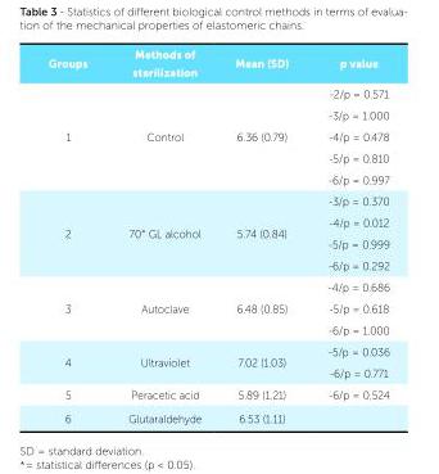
<table><thead><tr><td>Groups</td><td>Methods of sterilization</td><td>Mean (SD)</td><td>p value</td></tr></thead><tbody><tr><td rowspan="5">1</td><td rowspan="5">Control</td><td rowspan="5">6.36 (0.79)</td><td>-2/p = 0.571</td></tr><tr><td>-3/p = 1.000</td></tr><tr><td>-4/p = 0.478</td></tr><tr><td>-5/p = 0.810</td></tr><tr><td>-6/p = 0.997</td></tr><tr><td rowspan="4">2</td><td rowspan="4">70° GL alcohol</td><td rowspan="4">5.74 (0.84)</td><td>-3/p = 0.370</td></tr><tr><td>-4/p = 0.012</td></tr><tr><td>-5/p = 0.999</td></tr><tr><td>-6/p = 0.292</td></tr><tr><td rowspan="3">3</td><td rowspan="3">Autoclave</td><td rowspan="3">6.48 (0.85)</td><td>-4/p = 0.686</td></tr><tr><td>-5/p = 0.618</td></tr><tr><td>-6/p = 1.000</td></tr><tr><td rowspan="2">4</td><td rowspan="2">Ultraviolet</td><td rowspan="2">7.02 (1.03)</td><td>-5/p = 0.036</td></tr><tr><td>-6/p = 0.771</td></tr><tr><td>5</td><td>Peracetic acid</td><td>5.89 (1.21)</td><td>-6/p = 0.524</td></tr><tr><td>6</td><td>Glutaraldehyde</td><td>6.53 (1.11)</td><td></td></tr></tbody></table>